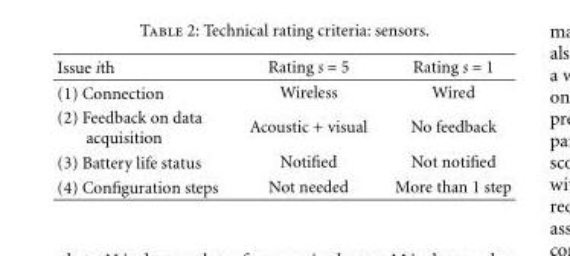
<table><thead><tr><td>Issue ith</td><td>Rating s = 5</td><td>Rating s = 1</td></tr></thead><tbody><tr><td>(1) Connection</td><td>Wireless</td><td>Wired</td></tr><tr><td>(2) Feedback on data acquisition</td><td>Acoustic + visual</td><td>No feedback</td></tr><tr><td>(3) Battery life status</td><td>Notified</td><td>Not notified</td></tr><tr><td>(4) Configuration steps</td><td>Not needed</td><td>More than 1 step</td></tr></tbody></table>